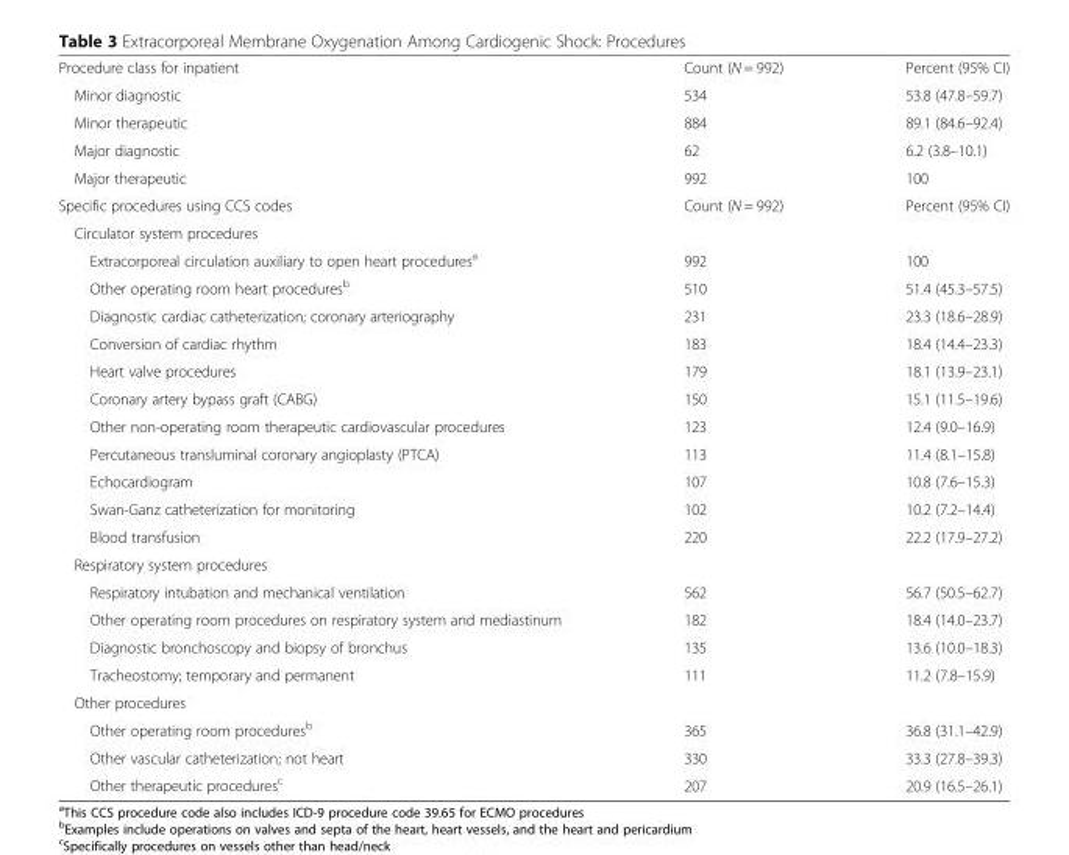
<table><tbody><tr><td>Procedure class for inpatient</td><td>Count (N = 992)</td><td>Percent (95% CI)</td></tr><tr><td>Minor diagnostic</td><td>534</td><td>53.8 (47.8–59.7)</td></tr><tr><td>Minor therapeutic</td><td>884</td><td>89.1 (84.6–92.4)</td></tr><tr><td>Major diagnostic</td><td>62</td><td>6.2 (3.8–10.1)</td></tr><tr><td>Major therapeutic</td><td>992</td><td>100</td></tr><tr><td>Specific procedures using CCS codes</td><td>Count (N = 992)</td><td>Percent (95% CI)</td></tr><tr><td colspan="3">Circulator system procedures</td></tr><tr><td>Extracorporeal circulation auxiliary to open heart procedures<sup>a</sup></td><td>992</td><td>100</td></tr><tr><td>Other operating room heart procedures<sup>b</sup></td><td>510</td><td>51.4 (45.3–57.5)</td></tr><tr><td>Diagnostic cardiac catheterization; coronary arteriography</td><td>231</td><td>23.3 (18.6–28.9)</td></tr><tr><td>Conversion of cardiac rhythm</td><td>183</td><td>18.4 (14.4–23.3)</td></tr><tr><td>Heart valve procedures</td><td>179</td><td>18.1 (13.9–23.1)</td></tr><tr><td>Coronary artery bypass graft (CABG)</td><td>150</td><td>15.1 (11.5–19.6)</td></tr><tr><td>Other non-operating room therapeutic cardiovascular procedures</td><td>123</td><td>12.4 (9.0–16.9)</td></tr><tr><td>Percutaneous transluminal coronary angioplasty (PTCA)</td><td>113</td><td>11.4 (8.1–15.8)</td></tr><tr><td>Echocardiogram</td><td>107</td><td>10.8 (7.6–15.3)</td></tr><tr><td>Swan-Ganz catheterization for monitoring</td><td>102</td><td>10.2 (7.2–14.4)</td></tr><tr><td>Blood transfusion</td><td>220</td><td>22.2 (17.9–27.2)</td></tr><tr><td colspan="3">Respiratory system procedures</td></tr><tr><td>Respiratory intubation and mechanical ventilation</td><td>562</td><td>56.7 (50.5–62.7)</td></tr><tr><td>Other operating room procedures on respiratory system and mediastinum</td><td>182</td><td>18.4 (14.0–23.7)</td></tr><tr><td>Diagnostic bronchoscopy and biopsy of bronchus</td><td>135</td><td>13.6 (10.0–18.3)</td></tr><tr><td>Tracheostomy; temporary and permanent</td><td>111</td><td>11.2 (7.8–15.9)</td></tr><tr><td colspan="3">Other procedures</td></tr><tr><td>Other operating room procedures<sup>b</sup></td><td>365</td><td>36.8 (31.1–42.9)</td></tr><tr><td>Other vascular catheterization; not heart</td><td>330</td><td>33.3 (27.8–39.3)</td></tr><tr><td>Other therapeutic procedures<sup>c</sup></td><td>207</td><td>20.9 (16.5–26.1)</td></tr></tbody></table>